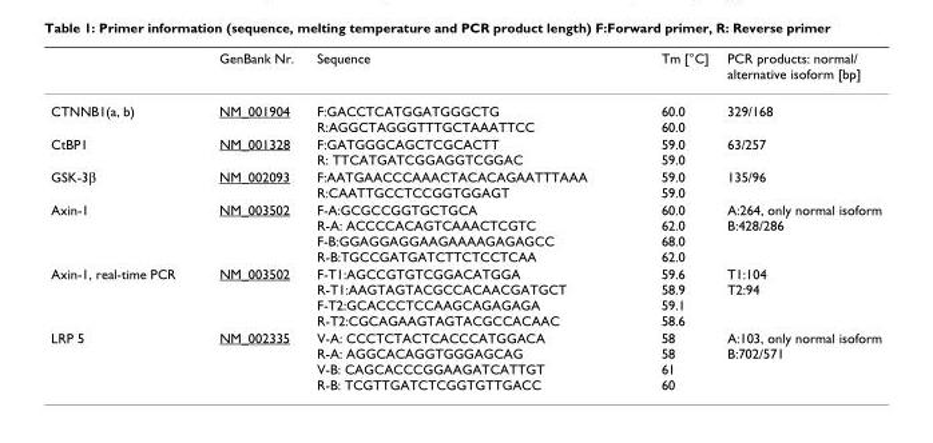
<table><thead><tr><td></td><td>GenBank Nr.</td><td>Sequence</td><td>Tm [°C]</td><td>PCR products: normal/ alternative isoform [bp]</td></tr></thead><tbody><tr><td>CTNNB1(a, b)</td><td>NM_001904</td><td>F:GACCTCATGGATGGGCTG R:AGGCTAGGGTTTGCTAAATTCC</td><td>60.0 60.0</td><td>329/168</td></tr><tr><td>CtBP1</td><td>NM_001328</td><td>F:GATGGGCAGCTCGCACTT R: TTCATGATCGGAGGTCGGAC</td><td>59.0 59.0</td><td>63/257</td></tr><tr><td>GSK-3β</td><td>NM_002093</td><td>F:AATGAACCCAAACTACACAGAATTTAAA R:CAATTGCCTCCGGTGGAGT</td><td>59.0 59.0</td><td>135/96</td></tr><tr><td>Axin-1</td><td>NM_003502</td><td>F-A:GCGCCGGTGCTGCA R-A: ACCCCACAGTCAAACTCGTC F-B:GGAGGAGGAAGAAAAGAGAGCC R-B:TGCCGATGATCTTCTCCTCAA</td><td>60.0 62.0 68.0 62.0</td><td>A:264, only normal isoform B:428/286</td></tr><tr><td>Axin-1, real-time PCR</td><td>NM_003502</td><td>F-T1:AGCCGTGTCGGACATGGA R-T1:AAGTAGTACGCCACAACGATGCT F-T2:GCACCCTCCAAGCAGAGAGA R-T2:CGCAGAAGTAGTACGCCACAAC</td><td>59.6 58.9 59.1 58.6</td><td>T1:104 T2:94</td></tr><tr><td>LRP 5</td><td>NM_002335</td><td>V-A: CCCTCTACTCACCCATGGACA R-A: AGGCACAGGTGGGAGCAG V-B: CAGCACCCGGAAGATCATTGT R-B: TCGTTGATCTCGGTGTTGACC</td><td>58 58 61 60</td><td>A:103, only normal isoform B:702/571</td></tr></tbody></table>